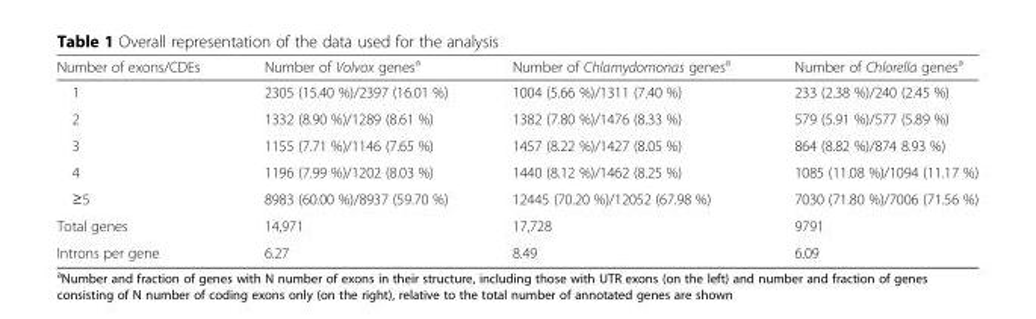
<table><thead><tr><td>Number of exons/CDEs</td><td>Number of Volvox genes<sup>a</sup></td><td>Number of Chlamydomonas genes<sup>a</sup></td><td>Number of Chlorella genes<sup>a</sup></td></tr></thead><tbody><tr><td>1</td><td>2305 (15.40 %)/2397 (16.01 %)</td><td>1004 (5.66 %)/1311 (7.40 %)</td><td>233 (2.38 %)/240 (2.45 %)</td></tr><tr><td>2</td><td>1332 (8.90 %)/1289 (8.61 %)</td><td>1382 (7.80 %)/1476 (8.33 %)</td><td>579 (5.91 %)/577 (5.89 %)</td></tr><tr><td>3</td><td>1155 (7.71 %)/1146 (7.65 %)</td><td>1457 (8.22 %)/1427 (8.05 %)</td><td>864 (8.82 %)/874 8.93 %)</td></tr><tr><td>4</td><td>1196 (7.99 %)/1202 (8.03 %)</td><td>1440 (8.12 %)/1462 (8.25 %)</td><td>1085 (11.08 %)/1094 (11.17 %)</td></tr><tr><td>≥5</td><td>8983 (60.00 %)/8937 (59.70 %)</td><td>12445 (70.20 %)/12052 (67.98 %)</td><td>7030 (71.80 %)/7006 (71.56 %)</td></tr><tr><td>Total genes</td><td>14,971</td><td>17,728</td><td>9791</td></tr><tr><td>Introns per gene</td><td>6.27</td><td>8.49</td><td>6.09</td></tr></tbody></table>